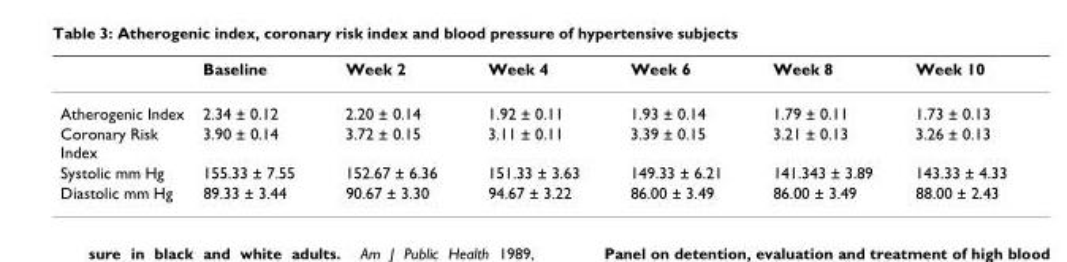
<table><thead><tr><td></td><td>Baseline</td><td>Week 2</td><td>Week 4</td><td>Week 6</td><td>Week 8</td><td>Week 10</td></tr></thead><tbody><tr><td>Atherogenic Index</td><td>2.34 ± 0.12</td><td>2.20 ± 0.14</td><td>1.92 ± 0.11</td><td>1.93 ± 0.14</td><td>1.79 ± 0.11</td><td>1.73 ± 0.13</td></tr><tr><td>Coronary Risk Index</td><td>3.90 ± 0.14</td><td>3.72 ± 0.15</td><td>3.11 ± 0.11</td><td>3.39 ± 0.15</td><td>3.21 ± 0.13</td><td>3.26 ± 0.13</td></tr><tr><td>Systolic mm Hg</td><td>155.33 ± 7.55</td><td>152.67 ± 6.36</td><td>151.33 ± 3.63</td><td>149.33 ± 6.21</td><td>141.343 ± 3.89</td><td>143.33 ± 4.33</td></tr><tr><td>Diastolic mm Hg</td><td>89.33 ± 3.44</td><td>90.67 ± 3.30</td><td>94.67 ± 3.22</td><td>86.00 ± 3.49</td><td>86.00 ± 3.49</td><td>88.00 ± 2.43</td></tr></tbody></table>